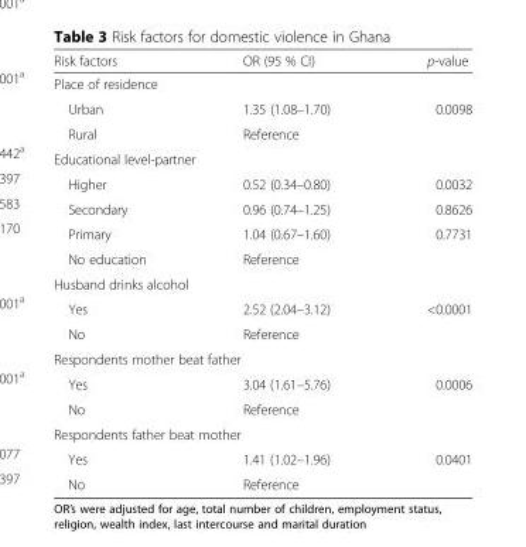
<table><thead><tr><td>Risk factors</td><td>OR (95 % CI)</td><td>p-value</td></tr></thead><tbody><tr><td colspan="3">Place of residence</td></tr><tr><td>Urban</td><td>1.35 (1.08–1.70)</td><td>0.0098</td></tr><tr><td>Rural</td><td>Reference</td><td></td></tr><tr><td colspan="3">Educational level-partner</td></tr><tr><td>Higher</td><td>0.52 (0.34–0.80)</td><td>0.0032</td></tr><tr><td>Secondary</td><td>0.96 (0.74–1.25)</td><td>0.8626</td></tr><tr><td>Primary</td><td>1.04 (0.67–1.60)</td><td>0.7731</td></tr><tr><td>No education</td><td>Reference</td><td></td></tr><tr><td colspan="3">Husband drinks alcohol</td></tr><tr><td>Yes</td><td>2.52 (2.04–3.12)</td><td>&lt;0.0001</td></tr><tr><td>No</td><td>Reference</td><td></td></tr><tr><td colspan="3">Respondents mother beat father</td></tr><tr><td>Yes</td><td>3.04 (1.61–5.76)</td><td>0.0006</td></tr><tr><td>No</td><td>Reference</td><td></td></tr><tr><td colspan="3">Respondents father beat mother</td></tr><tr><td>Yes</td><td>1.41 (1.02–1.96)</td><td>0.0401</td></tr><tr><td>No</td><td>Reference</td><td></td></tr></tbody></table>